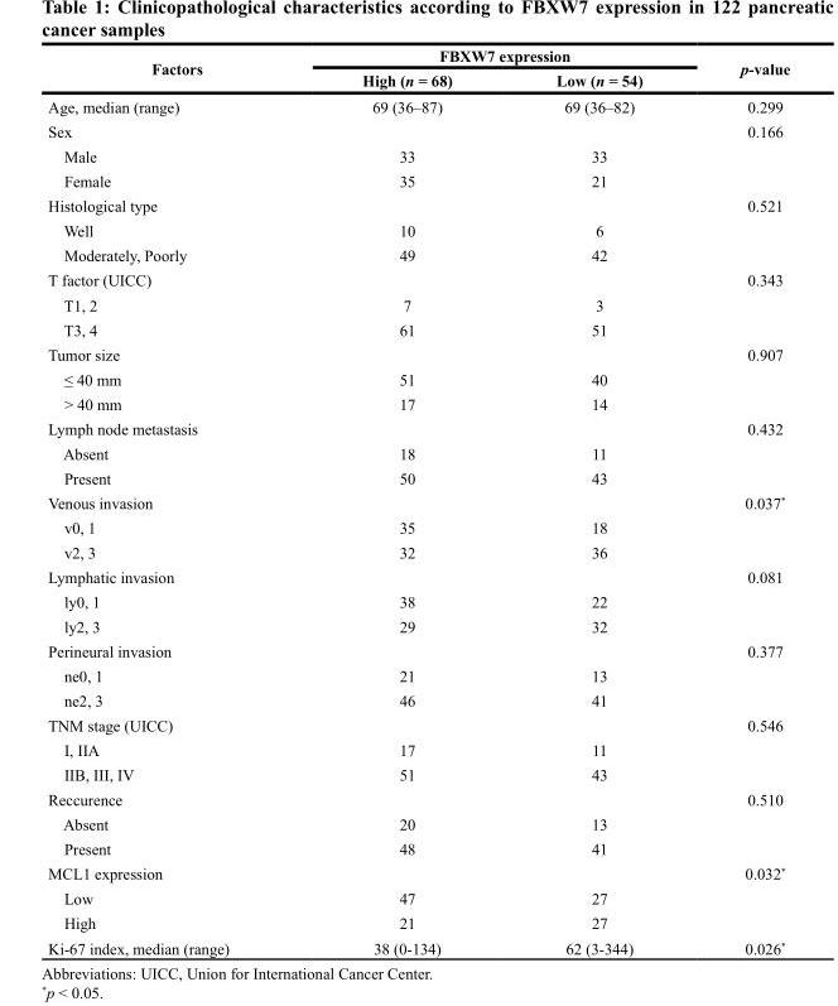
<table><thead><tr><td rowspan="2">Factors</td><td colspan="2">FBXW7 expression</td><td rowspan="2">p-value</td></tr><tr><td>High (n = 68)</td><td>Low (n = 54)</td></tr></thead><tbody><tr><td>Age, median (range)</td><td>69 (36–87)</td><td>69 (36–82)</td><td>0.299</td></tr><tr><td>Sex</td><td></td><td></td><td>0.166</td></tr><tr><td>Male</td><td>33</td><td>33</td><td></td></tr><tr><td>Female</td><td>35</td><td>21</td><td></td></tr><tr><td>Histological type</td><td></td><td></td><td>0.521</td></tr><tr><td>Well</td><td>10</td><td>6</td><td></td></tr><tr><td>Moderately, Poorly</td><td>49</td><td>42</td><td></td></tr><tr><td>T factor (UICC)</td><td></td><td></td><td>0.343</td></tr><tr><td>T1, 2</td><td>7</td><td>3</td><td></td></tr><tr><td>T3, 4</td><td>61</td><td>51</td><td></td></tr><tr><td>Tumor size</td><td></td><td></td><td>0.907</td></tr><tr><td>≤ 40 mm</td><td>51</td><td>40</td><td></td></tr><tr><td>&gt; 40 mm</td><td>17</td><td>14</td><td></td></tr><tr><td>Lymph node metastasis</td><td></td><td></td><td>0.432</td></tr><tr><td>Absent</td><td>18</td><td>11</td><td></td></tr><tr><td>Present</td><td>50</td><td>43</td><td></td></tr><tr><td>Venous invasion</td><td></td><td></td><td>0.037*</td></tr><tr><td>v0, 1</td><td>35</td><td>18</td><td></td></tr><tr><td>v2, 3</td><td>32</td><td>36</td><td></td></tr><tr><td>Lymphatic invasion</td><td></td><td></td><td>0.081</td></tr><tr><td>ly0, 1</td><td>38</td><td>22</td><td></td></tr><tr><td>ly2, 3</td><td>29</td><td>32</td><td></td></tr><tr><td>Perineural invasion</td><td></td><td></td><td>0.377</td></tr><tr><td>ne0, 1</td><td>21</td><td>13</td><td></td></tr><tr><td>ne2, 3</td><td>46</td><td>41</td><td></td></tr><tr><td>TNM stage (UICC)</td><td></td><td></td><td>0.546</td></tr><tr><td>I, IIA</td><td>17</td><td>11</td><td></td></tr><tr><td>IIB, III, IV</td><td>51</td><td>43</td><td></td></tr><tr><td>Reccurence</td><td></td><td></td><td>0.510</td></tr><tr><td>Absent</td><td>20</td><td>13</td><td></td></tr><tr><td>Present</td><td>48</td><td>41</td><td></td></tr><tr><td>MCL1 expression</td><td></td><td></td><td>0.032*</td></tr><tr><td>Low</td><td>47</td><td>27</td><td></td></tr><tr><td>High</td><td>21</td><td>27</td><td></td></tr><tr><td>Ki-67 index, median (range)</td><td>38 (0-134)</td><td>62 (3-344)</td><td>0.026*</td></tr></tbody></table>